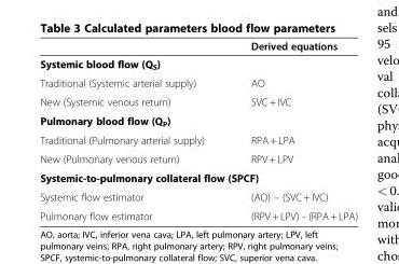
<table><thead><tr><td></td><td>Derived equations</td></tr></thead><tbody><tr><td colspan="2">Systemic blood flow (Q<sub>S</sub>)</td></tr><tr><td>Traditional (Systemic arterial supply)</td><td>AO</td></tr><tr><td>New (Systemic venous return)</td><td>SVC + IVC</td></tr><tr><td colspan="2">Pulmonary blood flow (Q<sub>P</sub>)</td></tr><tr><td>Traditional (Pulmonary arterial supply)</td><td>RPA + LPA</td></tr><tr><td>New (Pulmonary venous return)</td><td>RPV + LPV</td></tr><tr><td colspan="2">Systemic-to-pulmonary collateral flow (SPCF)</td></tr><tr><td>Systemic flow estimator</td><td>(AO) – (SVC + IVC)</td></tr><tr><td>Pulmonary flow estimator</td><td>(RPV + LPV) - (RPA + LPA)</td></tr></tbody></table>